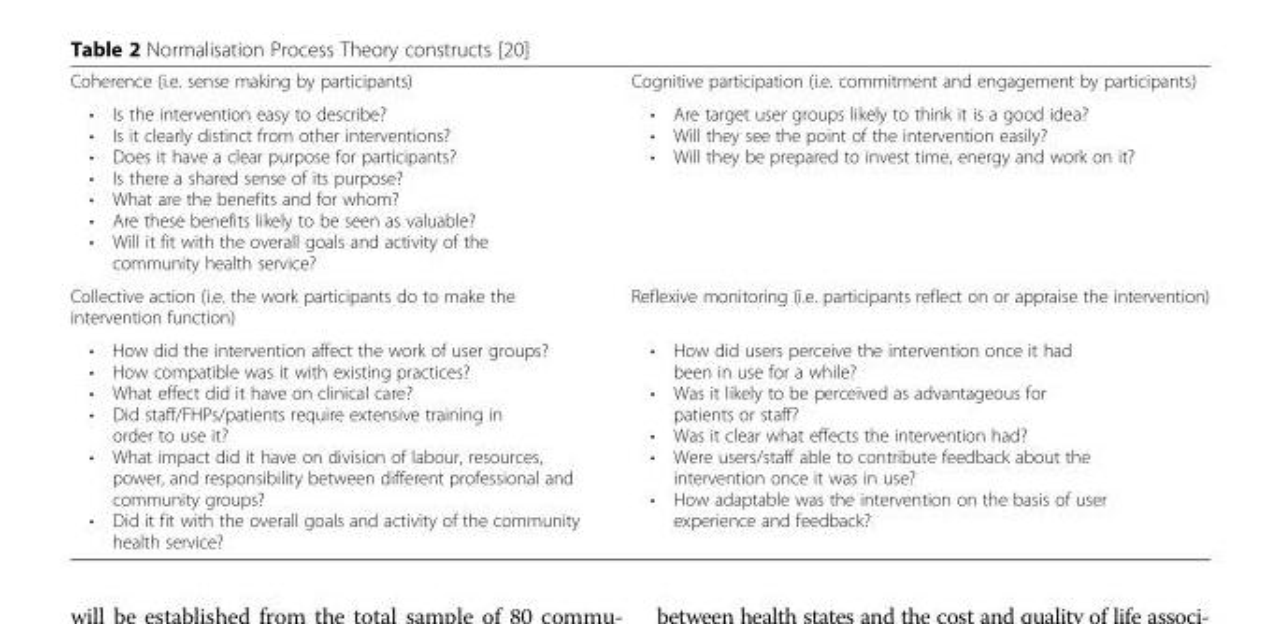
<table><tbody><tr><td>Coherence (i.e. sense making by participants)</td><td>Cognitive participation (i.e. commitment and engagement by participants)</td></tr><tr><td>• Is the intervention easy to describe? • Is it clearly distinct from other interventions? • Does it have a clear purpose for participants? • Is there a shared sense of its purpose? • What are the benefits and for whom? • Are these benefits likely to be seen as valuable? • Will it fit with the overall goals and activity of the community health service?</td><td>• Are target user groups likely to think it is a good idea? • Will they see the point of the intervention easily? • Will they be prepared to invest time, energy and work on it?</td></tr><tr><td>Collective action (i.e. the work participants do to make the intervention function)</td><td>Reflexive monitoring (i.e. participants reflect on or appraise the intervention)</td></tr><tr><td>• How did the intervention affect the work of user groups? • How compatible was it with existing practices? • What effect did it have on clinical care? • Did staff/FHPs/patients require extensive training in order to use it? • What impact did it have on division of labour, resources, power, and responsibility between different professional and community groups? • Did it fit with the overall goals and activity of the community health service?</td><td>• How did users perceive the intervention once it had been in use for a while? • Was it likely to be perceived as advantageous for patients or staff? • Was it clear what effects the intervention had? • Were users/staff able to contribute feedback about the intervention once it was in use? • How adaptable was the intervention on the basis of user experience and feedback?</td></tr></tbody></table>